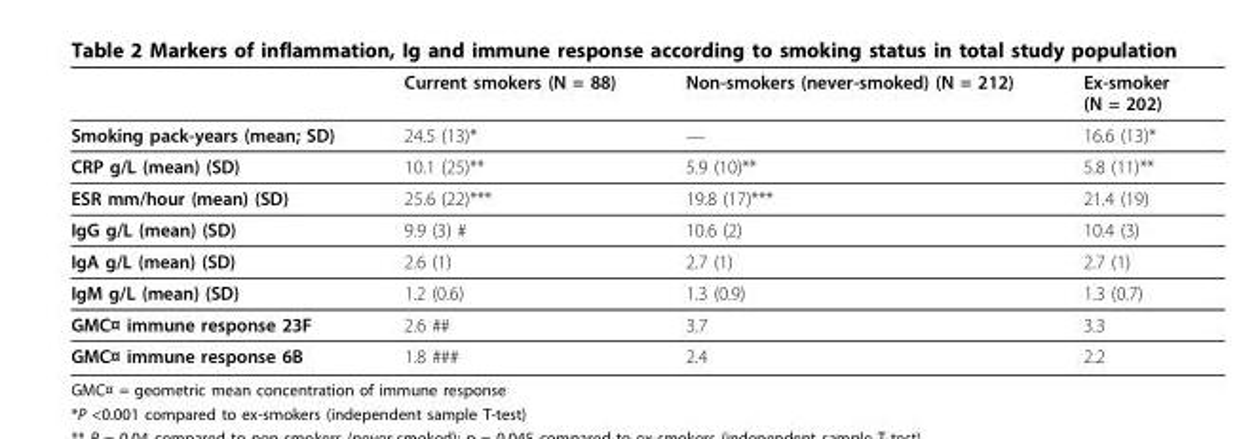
<table><thead><tr><td></td><td>Current smokers (N = 88)</td><td>Non-smokers (never-smoked) (N = 212)</td><td>Ex-smoker (N = 202)</td></tr></thead><tbody><tr><td>Smoking pack-years (mean; SD)</td><td>24.5 (13)*</td><td>—</td><td>16.6 (13)*</td></tr><tr><td>CRP g/L (mean) (SD)</td><td>10.1 (25)**</td><td>5.9 (10)**</td><td>5.8 (11)**</td></tr><tr><td>ESR mm/hour (mean) (SD)</td><td>25.6 (22)***</td><td>19.8 (17)***</td><td>21.4 (19)</td></tr><tr><td>IgG g/L (mean) (SD)</td><td>9.9 (3) #</td><td>10.6 (2)</td><td>10.4 (3)</td></tr><tr><td>IgA g/L (mean) (SD)</td><td>2.6 (1)</td><td>2.7 (1)</td><td>2.7 (1)</td></tr><tr><td>IgM g/L (mean) (SD)</td><td>1.2 (0.6)</td><td>1.3 (0.9)</td><td>1.3 (0.7)</td></tr><tr><td>GMC¤ immune response 23F</td><td>2.6 ##</td><td>3.7</td><td>3.3</td></tr><tr><td>GMC¤ immune response 6B</td><td>1.8 ###</td><td>2.4</td><td>2.2</td></tr></tbody></table>